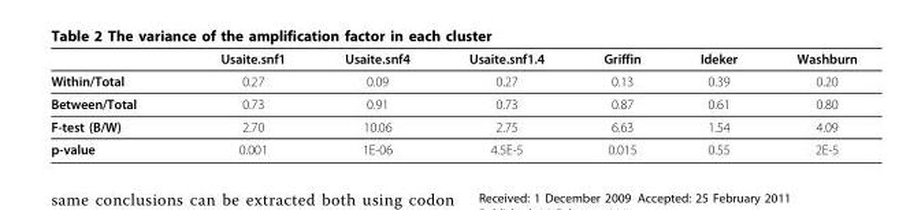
<table><thead><tr><td></td><td>Usaite.snf1</td><td>Usaite.snf4</td><td>Usaite.snf1.4</td><td>Griffin</td><td>Ideker</td><td>Washburn</td></tr></thead><tbody><tr><td>Within/Total</td><td>0.27</td><td>0.09</td><td>0.27</td><td>0.13</td><td>0.39</td><td>0.20</td></tr><tr><td>Between/Total</td><td>0.73</td><td>0.91</td><td>0.73</td><td>0.87</td><td>0.61</td><td>0.80</td></tr><tr><td>F-test (B/W)</td><td>2.70</td><td>10.06</td><td>2.75</td><td>6.63</td><td>1.54</td><td>4.09</td></tr><tr><td>p-value</td><td>0.001</td><td>1E-06</td><td>4.5E-5</td><td>0.015</td><td>0.55</td><td>2E-5</td></tr></tbody></table>